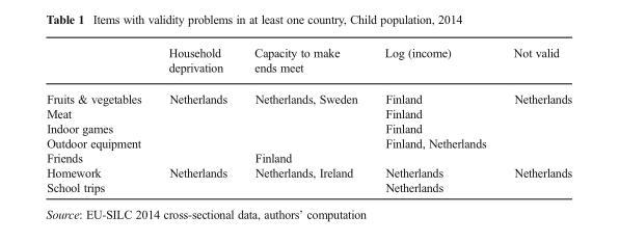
<table><thead><tr><td></td><td>Household deprivation</td><td>Capacity to make ends meet</td><td>Log (income)</td><td>Not valid</td></tr></thead><tbody><tr><td>Fruits &amp; vegetables</td><td>Netherlands</td><td>Netherlands, Sweden</td><td>Finland</td><td>Netherlands</td></tr><tr><td>Meat</td><td></td><td></td><td>Finland</td><td></td></tr><tr><td>Indoor games</td><td></td><td></td><td>Finland</td><td></td></tr><tr><td>Outdoor equipment</td><td></td><td></td><td>Finland, Netherlands</td><td></td></tr><tr><td>Friends</td><td></td><td>Finland</td><td></td><td></td></tr><tr><td>Homework</td><td>Netherlands</td><td>Netherlands, Ireland</td><td>Netherlands</td><td>Netherlands</td></tr><tr><td>School trips</td><td></td><td></td><td>Netherlands</td><td></td></tr></tbody></table>